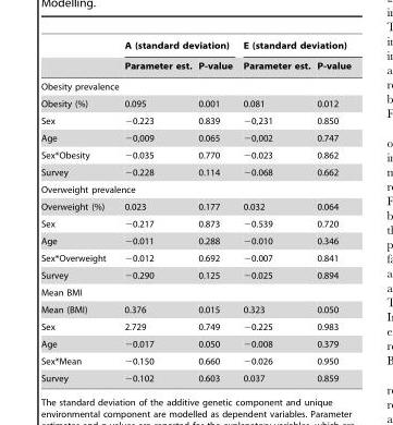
<table><thead><tr><td rowspan="2"></td><td colspan="2">A (standard deviation)</td><td colspan="2">E (standard deviation)</td></tr><tr><td>Parameter est.</td><td>P-value</td><td>Parameter est.</td><td>P-value</td></tr></thead><tbody><tr><td colspan="5">Obesity prevalence</td></tr><tr><td>Obesity (%)</td><td>0.095</td><td>0.001</td><td>0.081</td><td>0.012</td></tr><tr><td>Sex</td><td>−0.223</td><td>0.839</td><td>−0,231</td><td>0.850</td></tr><tr><td>Age</td><td>−0,009</td><td>0.065</td><td>−0,002</td><td>0.747</td></tr><tr><td>Sex*Obesity</td><td>−0.035</td><td>0.770</td><td>−0.023</td><td>0.862</td></tr><tr><td>Survey</td><td>−0.228</td><td>0.114</td><td>−0.068</td><td>0.662</td></tr><tr><td colspan="5">Overweight prevalence</td></tr><tr><td>Overweight (%)</td><td>0.023</td><td>0.177</td><td>0.032</td><td>0.064</td></tr><tr><td>Sex</td><td>−0.217</td><td>0.873</td><td>−0.539</td><td>0.720</td></tr><tr><td>Age</td><td>−0.011</td><td>0.288</td><td>−0.010</td><td>0.346</td></tr><tr><td>Sex*Overweight</td><td>−0.012</td><td>0.692</td><td>−0.007</td><td>0.841</td></tr><tr><td>Survey</td><td>−0.290</td><td>0.125</td><td>−0.025</td><td>0.894</td></tr><tr><td colspan="5">Mean BMI</td></tr><tr><td>Mean (BMI)</td><td>0.376</td><td>0.015</td><td>0.323</td><td>0.050</td></tr><tr><td>Sex</td><td>2.729</td><td>0.749</td><td>−0.225</td><td>0.983</td></tr><tr><td>Age</td><td>−0.017</td><td>0.050</td><td>−0.008</td><td>0.379</td></tr><tr><td>Sex*Mean</td><td>−0.150</td><td>0.660</td><td>−0.026</td><td>0.950</td></tr><tr><td>Survey</td><td>−0.102</td><td>0.603</td><td>0.037</td><td>0.859</td></tr></tbody></table>